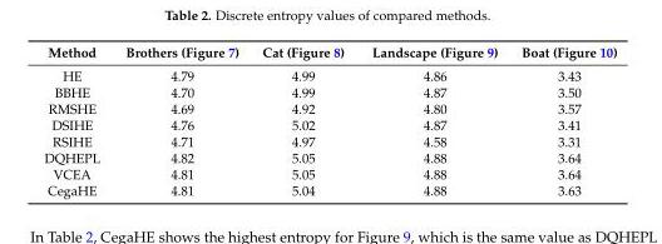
<table><thead><tr><td>Method</td><td>Brothers (Figure 7)</td><td>Cat (Figure 8)</td><td>Landscape (Figure 9)</td><td>Boat (Figure 10)</td></tr></thead><tbody><tr><td>HE</td><td>4.79</td><td>4.99</td><td>4.86</td><td>3.43</td></tr><tr><td>BBHE</td><td>4.70</td><td>4.99</td><td>4.87</td><td>3.50</td></tr><tr><td>RMSHE</td><td>4.69</td><td>4.92</td><td>4.80</td><td>3.57</td></tr><tr><td>DSIHE</td><td>4.76</td><td>5.02</td><td>4.87</td><td>3.41</td></tr><tr><td>RSIHE</td><td>4.71</td><td>4.97</td><td>4.58</td><td>3.31</td></tr><tr><td>DQHEPL</td><td>4.82</td><td>5.05</td><td>4.88</td><td>3.64</td></tr><tr><td>VCEA</td><td>4.81</td><td>5.05</td><td>4.88</td><td>3.64</td></tr><tr><td>CegaHE</td><td>4.81</td><td>5.04</td><td>4.88</td><td>3.63</td></tr></tbody></table>